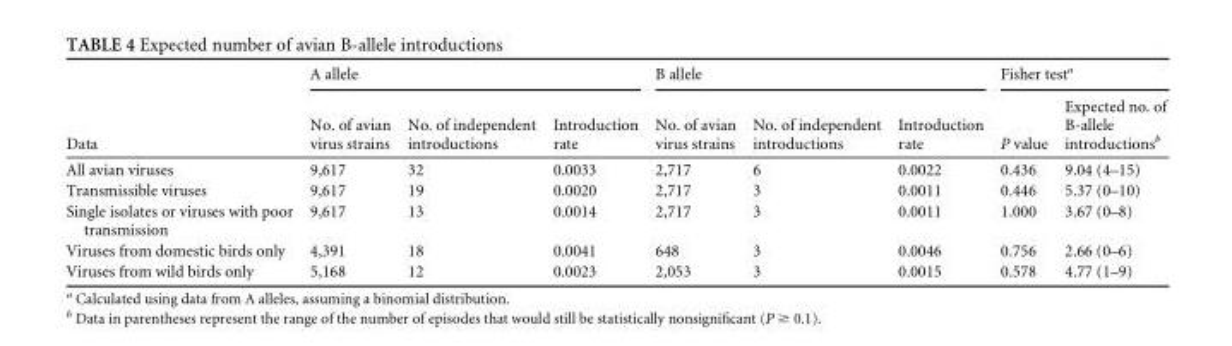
<table><thead><tr><td rowspan="2">Data</td><td colspan="3">A allele</td><td colspan="3">B allele</td><td colspan="2">Fisher test<sup>a</sup></td></tr><tr><td>No. of avian virus strains</td><td>No. of independent introductions</td><td>Introduction rate</td><td>No. of avian virus strains</td><td>No. of independent introductions</td><td>Introduction rate</td><td>P value</td><td>Expected no. of B-allele introductions<sup>b</sup></td></tr></thead><tbody><tr><td>All avian viruses</td><td>9,617</td><td>32</td><td>0.0033</td><td>2,717</td><td>6</td><td>0.0022</td><td>0.436</td><td>9.04 (4–15)</td></tr><tr><td>Transmissible viruses</td><td>9,617</td><td>19</td><td>0.0020</td><td>2,717</td><td>3</td><td>0.0011</td><td>0.446</td><td>5.37 (0–10)</td></tr><tr><td>Single isolates or viruses with poor transmission</td><td>9,617</td><td>13</td><td>0.0014</td><td>2,717</td><td>3</td><td>0.0011</td><td>1.000</td><td>3.67 (0–8)</td></tr><tr><td>Viruses from domestic birds only</td><td>4,391</td><td>18</td><td>0.0041</td><td>648</td><td>3</td><td>0.0046</td><td>0.756</td><td>2.66 (0–6)</td></tr><tr><td>Viruses from wild birds only</td><td>5,168</td><td>12</td><td>0.0023</td><td>2,053</td><td>3</td><td>0.0015</td><td>0.578</td><td>4.77 (1–9)</td></tr></tbody></table>